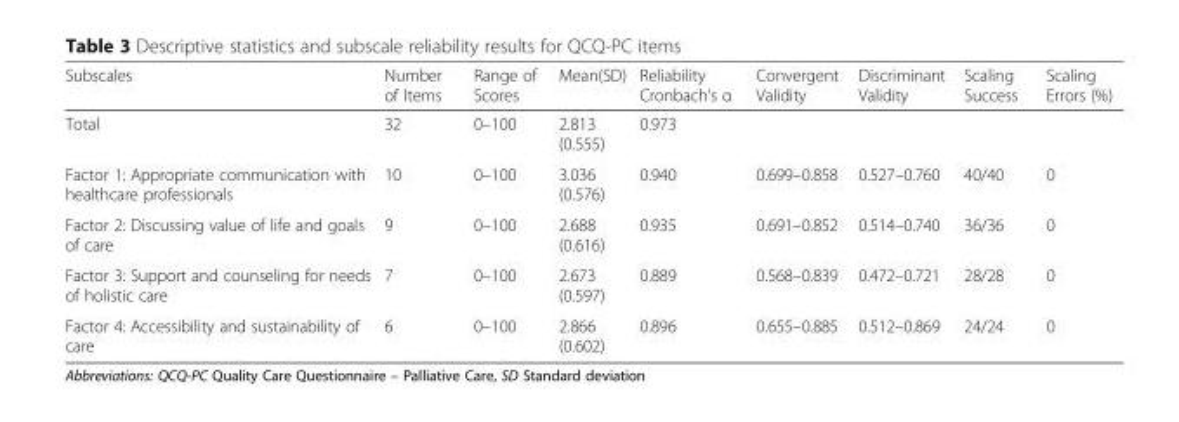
<table><thead><tr><td>Subscales</td><td>Number of Items</td><td>Range of Scores</td><td>Mean(SD)</td><td>Reliability Cronbach’s α</td><td>Convergent Validity</td><td>Discriminant Validity</td><td>Scaling Success</td><td>Scaling Errors (%)</td></tr></thead><tbody><tr><td>Total</td><td>32</td><td>0–100</td><td>2.813 (0.555)</td><td>0.973</td><td></td><td></td><td></td><td></td></tr><tr><td>Factor 1: Appropriate communication with healthcare professionals</td><td>10</td><td>0–100</td><td>3.036 (0.576)</td><td>0.940</td><td>0.699–0.858</td><td>0.527–0.760</td><td>40/40</td><td>0</td></tr><tr><td>Factor 2: Discussing value of life and goals of care</td><td>9</td><td>0–100</td><td>2.688 (0.616)</td><td>0.935</td><td>0.691–0.852</td><td>0.514–0.740</td><td>36/36</td><td>0</td></tr><tr><td>Factor 3: Support and counseling for needs of holistic care</td><td>7</td><td>0–100</td><td>2.673 (0.597)</td><td>0.889</td><td>0.568–0.839</td><td>0.472–0.721</td><td>28/28</td><td>0</td></tr><tr><td>Factor 4: Accessibility and sustainability of care</td><td>6</td><td>0–100</td><td>2.866 (0.602)</td><td>0.896</td><td>0.655–0.885</td><td>0.512–0.869</td><td>24/24</td><td>0</td></tr></tbody></table>